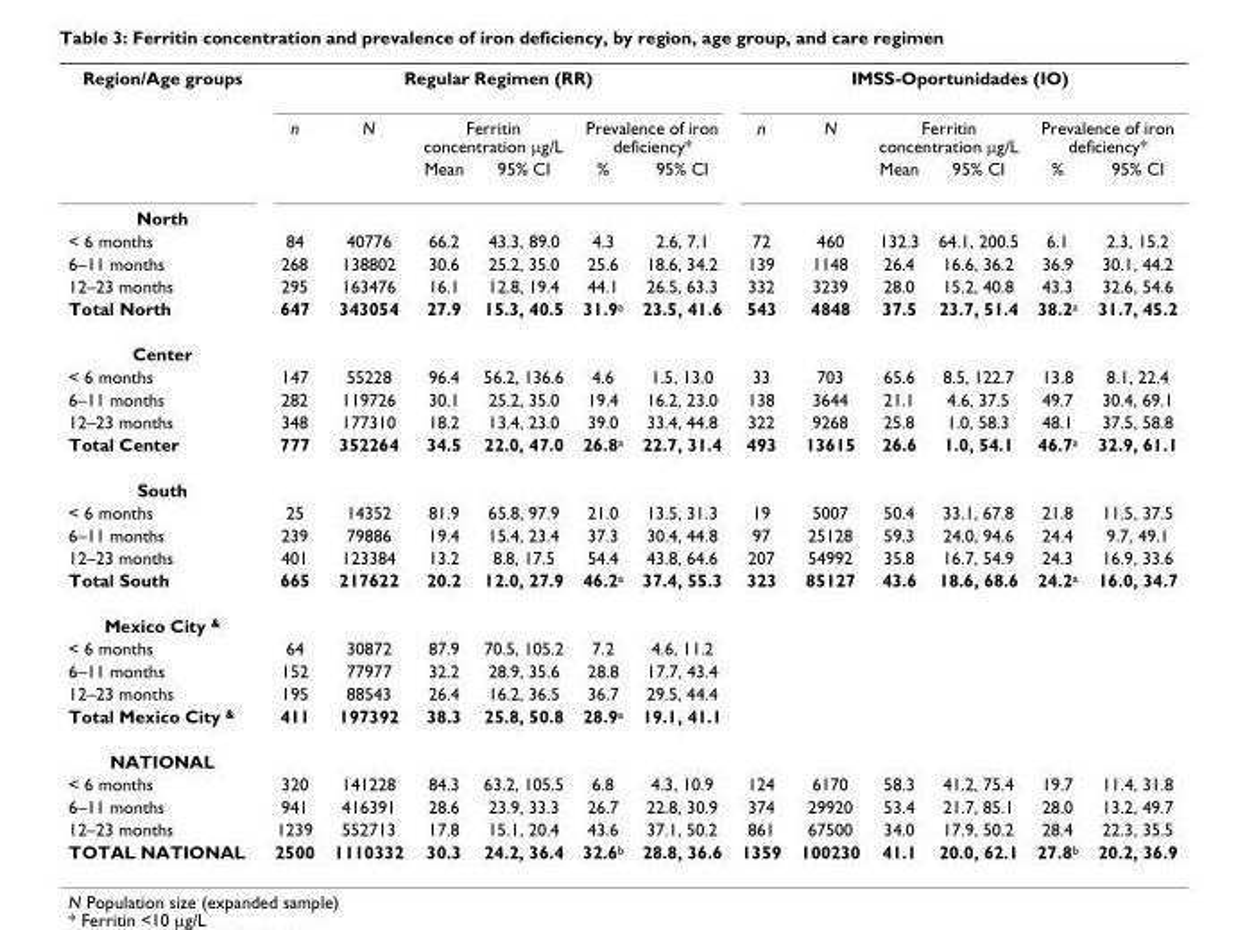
<table><tbody><tr><td rowspan="3">Region/Age groups</td><td colspan="6">Regular Regimen (RR)</td><td colspan="6">IMSS-Oportunidades (IO)</td></tr><tr><td>n</td><td>N</td><td colspan="2">Ferritin concentration μg/L</td><td colspan="2">Prevalence of iron deficiency*</td><td>n</td><td>N</td><td colspan="2">Ferritin concentration μg/L</td><td colspan="2">Prevalence of iron deficiency*</td></tr><tr><td></td><td></td><td>Mean</td><td>95% CI</td><td>%</td><td>95% CI</td><td></td><td></td><td>Mean</td><td>95% CI</td><td>%</td><td>95% CI</td></tr><tr><td colspan="13">North</td></tr><tr><td>&lt; 6 months</td><td>84</td><td>40776</td><td>66.2</td><td>43.3, 89.0</td><td>4.3</td><td>2.6, 7.1</td><td>72</td><td>460</td><td>132.3</td><td>64.1, 200.5</td><td>6.1</td><td>2.3, 15.2</td></tr><tr><td>6–11 months</td><td>268</td><td>138802</td><td>30.6</td><td>25.2, 35.0</td><td>25.6</td><td>18.6, 34.2</td><td>139</td><td>1148</td><td>26.4</td><td>16.6, 36.2</td><td>36.9</td><td>30.1, 44.2</td></tr><tr><td>12–23 months</td><td>295</td><td>163476</td><td>16.1</td><td>12.8, 19.4</td><td>44.1</td><td>26.5, 63.3</td><td>332</td><td>3239</td><td>28.0</td><td>15.2, 40.8</td><td>43.3</td><td>32.6, 54.6</td></tr><tr><td>Total North</td><td>647</td><td>343054</td><td>27.9</td><td>15.3, 40.5</td><td>31.9<sup>a</sup></td><td>23.5, 41.6</td><td>543</td><td>4848</td><td>37.5</td><td>23.7, 51.4</td><td>38.2<sup>a</sup></td><td>31.7, 45.2</td></tr><tr><td colspan="13">Center</td></tr><tr><td>&lt; 6 months</td><td>147</td><td>55228</td><td>96.4</td><td>56.2, 136.6</td><td>4.6</td><td>1.5, 13.0</td><td>33</td><td>703</td><td>65.6</td><td>8.5, 122.7</td><td>13.8</td><td>8.1, 22.4</td></tr><tr><td>6–11 months</td><td>282</td><td>119726</td><td>30.1</td><td>25.2, 35.0</td><td>19.4</td><td>16.2, 23.0</td><td>138</td><td>3644</td><td>21.1</td><td>4.6, 37.5</td><td>49.7</td><td>30.4, 69.1</td></tr><tr><td>12–23 months</td><td>348</td><td>177310</td><td>18.2</td><td>13.4, 23.0</td><td>39.0</td><td>33.4, 44.8</td><td>322</td><td>9268</td><td>25.8</td><td>1.0, 58.3</td><td>48.1</td><td>37.5, 58.8</td></tr><tr><td>Total Center</td><td>777</td><td>352264</td><td>34.5</td><td>22.0, 47.0</td><td>26.8<sup>a</sup></td><td>22.7, 31.4</td><td>493</td><td>13615</td><td>26.6</td><td>1.0, 54.1</td><td>46.7<sup>a</sup></td><td>32.9, 61.1</td></tr><tr><td colspan="13">South</td></tr><tr><td>&lt; 6 months</td><td>25</td><td>14352</td><td>81.9</td><td>65.8, 97.9</td><td>21.0</td><td>13.5, 31.3</td><td>19</td><td>5007</td><td>50.4</td><td>33.1, 67.8</td><td>21.8</td><td>11.5, 37.5</td></tr><tr><td>6–11 months</td><td>239</td><td>79886</td><td>19.4</td><td>15.4, 23.4</td><td>37.3</td><td>30.4, 44.8</td><td>97</td><td>25128</td><td>59.3</td><td>24.0, 94.6</td><td>24.4</td><td>9.7, 49.1</td></tr><tr><td>12–23 months</td><td>401</td><td>123384</td><td>13.2</td><td>8.8, 17.5</td><td>54.4</td><td>43.8, 64.6</td><td>207</td><td>54992</td><td>35.8</td><td>16.7, 54.9</td><td>24.3</td><td>16.9, 33.6</td></tr><tr><td>Total South</td><td>665</td><td>217622</td><td>20.2</td><td>12.0, 27.9</td><td>46.2<sup>a</sup></td><td>37.4, 55.3</td><td>323</td><td>85127</td><td>43.6</td><td>18.6, 68.6</td><td>24.2<sup>a</sup></td><td>16.0, 34.7</td></tr><tr><td colspan="13">Mexico City <sup>&amp;</sup></td></tr><tr><td>&lt; 6 months</td><td>64</td><td>30872</td><td>87.9</td><td>70.5, 105.2</td><td>7.2</td><td>4.6, 11.2</td><td></td><td></td><td></td><td></td><td></td><td></td></tr><tr><td>6–11 months</td><td>152</td><td>77977</td><td>32.2</td><td>28.9, 35.6</td><td>28.8</td><td>17.7, 43.4</td><td></td><td></td><td></td><td></td><td></td><td></td></tr><tr><td>12–23 months</td><td>195</td><td>88543</td><td>26.4</td><td>16.2, 36.5</td><td>36.7</td><td>29.5, 44.4</td><td></td><td></td><td></td><td></td><td></td><td></td></tr><tr><td>Total Mexico City <sup>&amp;</sup></td><td>411</td><td>197392</td><td>38.3</td><td>25.8, 50.8</td><td>28.9<sup>a</sup></td><td>19.1, 41.1</td><td></td><td></td><td></td><td></td><td></td><td></td></tr><tr><td colspan="13">NATIONAL</td></tr><tr><td>&lt; 6 months</td><td>320</td><td>141228</td><td>84.3</td><td>63.2, 105.5</td><td>6.8</td><td>4.3, 10.9</td><td>124</td><td>6170</td><td>58.3</td><td>41.2, 75.4</td><td>19.7</td><td>11.4, 31.8</td></tr><tr><td>6–11 months</td><td>941</td><td>416391</td><td>28.6</td><td>23.9, 33.3</td><td>26.7</td><td>22.8, 30.9</td><td>374</td><td>29920</td><td>53.4</td><td>21.7, 85.1</td><td>28.0</td><td>13.2, 49.7</td></tr><tr><td>12–23 months</td><td>1239</td><td>552713</td><td>17.8</td><td>15.1, 20.4</td><td>43.6</td><td>37.1, 50.2</td><td>861</td><td>67500</td><td>34.0</td><td>17.9, 50.2</td><td>28.4</td><td>22.3, 35.5</td></tr><tr><td>TOTAL NATIONAL</td><td>2500</td><td>1110332</td><td>30.3</td><td>24.2, 36.4</td><td>32.6<sup>b</sup></td><td>28.8, 36.6</td><td>1359</td><td>100230</td><td>41.1</td><td>20.0, 62.1</td><td>27.8<sup>b</sup></td><td>20.2, 36.9</td></tr></tbody></table>